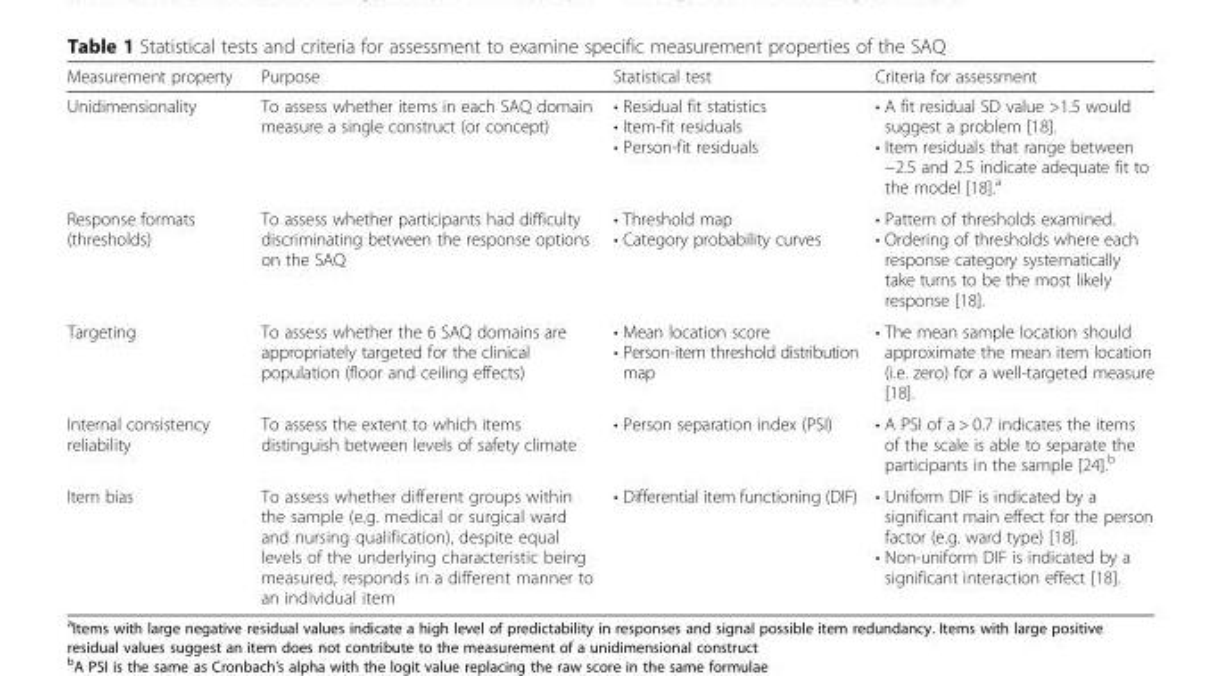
<table><thead><tr><td>Measurement property</td><td>Purpose</td><td>Statistical test</td><td>Criteria for assessment</td></tr></thead><tbody><tr><td>Unidimensionality</td><td>To assess whether items in each SAQ domain measure a single construct (or concept)</td><td>• Residual fit statistics • Item-fit residuals • Person-fit residuals</td><td>• A fit residual SD value &gt;1.5 would suggest a problem [18]. • Item residuals that range between −2.5 and 2.5 indicate adequate fit to the model [18].<sup>a</sup></td></tr><tr><td>Response formats (thresholds)</td><td>To assess whether participants had difficulty discriminating between the response options on the SAQ</td><td>• Threshold map • Category probability curves</td><td>• Pattern of thresholds examined. • Ordering of thresholds where each response category systematically take turns to be the most likely response [18].</td></tr><tr><td>Targeting</td><td>To assess whether the 6 SAQ domains are appropriately targeted for the clinical population (floor and ceiling effects)</td><td>• Mean location score • Person-item threshold distribution map</td><td>• The mean sample location should approximate the mean item location (i.e. zero) for a well-targeted measure [18].</td></tr><tr><td>Internal consistency reliability</td><td>To assess the extent to which items distinguish between levels of safety climate</td><td>• Person separation index (PSI)</td><td>• A PSI of a &gt; 0.7 indicates the items of the scale is able to separate the participants in the sample [24].<sup>b</sup></td></tr><tr><td>Item bias</td><td>To assess whether different groups within the sample (e.g. medical or surgical ward and nursing qualification), despite equal levels of the underlying characteristic being measured, responds in a different manner to an individual item</td><td>• Differential item functioning (DIF)</td><td>• Uniform DIF is indicated by a significant main effect for the person factor (e.g. ward type) [18]. • Non-uniform DIF is indicated by a significant interaction effect [18].</td></tr></tbody></table>